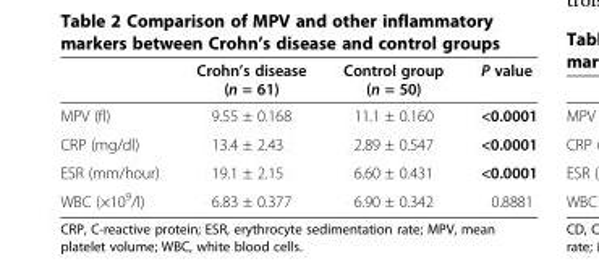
<table><thead><tr><td></td><td>Crohn’s disease (n = 61)</td><td>Control group (n = 50)</td><td>P value</td></tr></thead><tbody><tr><td>MPV (fl)</td><td>9.55 ± 0.168</td><td>11.1 ± 0.160</td><td>&lt;0.0001</td></tr><tr><td>CRP (mg/dl)</td><td>13.4 ± 2.43</td><td>2.89 ± 0.547</td><td>&lt;0.0001</td></tr><tr><td>ESR (mm/hour)</td><td>19.1 ± 2.15</td><td>6.60 ± 0.431</td><td>&lt;0.0001</td></tr><tr><td>WBC (×10<sup>9</sup>/l)</td><td>6.83 ± 0.377</td><td>6.90 ± 0.342</td><td>0.8881</td></tr></tbody></table>